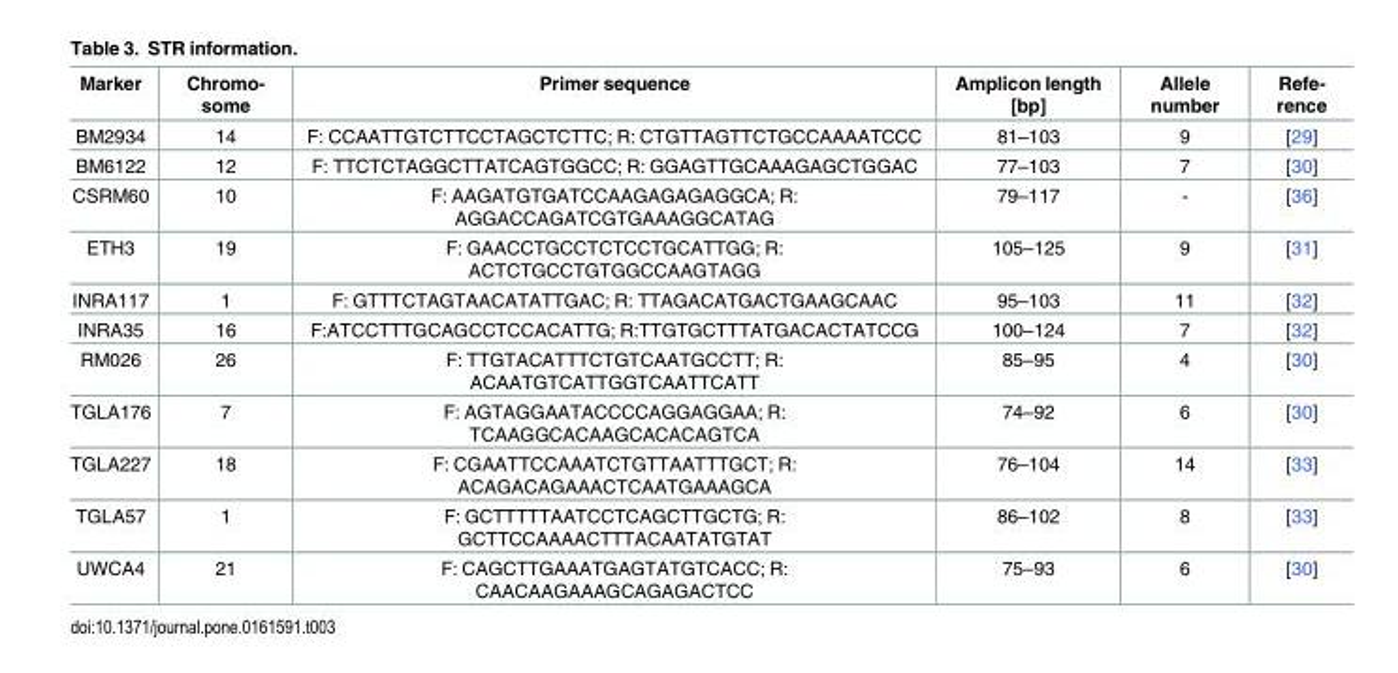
<table><thead><tr><td>Marker</td><td>Chromo- some</td><td>Primer sequence</td><td>Amplicon length [bp]</td><td>Allele number</td><td>Refe- rence</td></tr></thead><tbody><tr><td>BM2934</td><td>14</td><td>F: CCAATTGTCTTCCTAGCTCTTC; R: CTGTTAGTTCTGCCAAAATCCC</td><td>81–103</td><td>9</td><td>[29]</td></tr><tr><td>BM6122</td><td>12</td><td>F: TTCTCTAGGCTTATCAGTGGCC; R: GGAGTTGCAAAGAGCTGGAC</td><td>77–103</td><td>7</td><td>[30]</td></tr><tr><td>CSRM60</td><td>10</td><td>F: AAGATGTGATCCAAGAGAGAGGCA; R: AGGACCAGATCGTGAAAGGCATAG</td><td>79–117</td><td>-</td><td>[36]</td></tr><tr><td>ETH3</td><td>19</td><td>F: GAACCTGCCTCTCCTGCATTGG; R: ACTCTGCCTGTGGCCAAGTAGG</td><td>105–125</td><td>9</td><td>[31]</td></tr><tr><td>INRA117</td><td>1</td><td>F: GTTTCTAGTAACATATTGAC; R: TTAGACATGACTGAAGCAAC</td><td>95–103</td><td>11</td><td>[32]</td></tr><tr><td>INRA35</td><td>16</td><td>F:ATCCTTTGCAGCCTCCACATTG; R:TTGTGCTTTATGACACTATCCG</td><td>100–124</td><td>7</td><td>[32]</td></tr><tr><td>RM026</td><td>26</td><td>F: TTGTACATTTCTGTCAATGCCTT; R: ACAATGTCATTGGTCAATTCATT</td><td>85–95</td><td>4</td><td>[30]</td></tr><tr><td>TGLA176</td><td>7</td><td>F: AGTAGGAATACCCCAGGAGGAA; R: TCAAGGCACAAGCACACAGTCA</td><td>74–92</td><td>6</td><td>[30]</td></tr><tr><td>TGLA227</td><td>18</td><td>F: CGAATTCCAAATCTGTTAATTTGCT; R: ACAGACAGAAACTCAATGAAAGCA</td><td>76–104</td><td>14</td><td>[33]</td></tr><tr><td>TGLA57</td><td>1</td><td>F: GCTTTTTAATCCTCAGCTTGCTG; R: GCTTCCAAAACTTTACAATATGTAT</td><td>86–102</td><td>8</td><td>[33]</td></tr><tr><td>UWCA4</td><td>21</td><td>F: CAGCTTGAAATGAGTATGTCACC; R: CAACAAGAAAGCAGAGACTCC</td><td>75–93</td><td>6</td><td>[30]</td></tr></tbody></table>